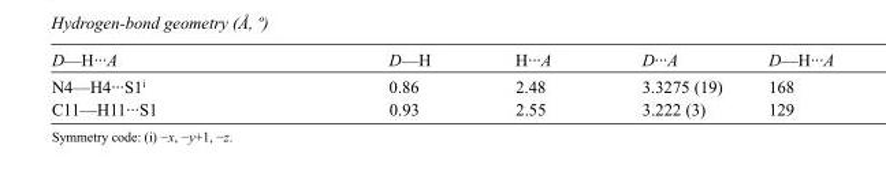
<table><tbody><tr><td>D—H···A</td><td>D—H</td><td>H···A</td><td>D···A</td><td>D—H···A</td></tr><tr><td>N4—H4···S1<sup>i</sup></td><td>0.86</td><td>2.48</td><td>3.3275 (19)</td><td>168</td></tr><tr><td>C11—H11···S1</td><td>0.93</td><td>2.55</td><td>3.222 (3)</td><td>129</td></tr></tbody></table>